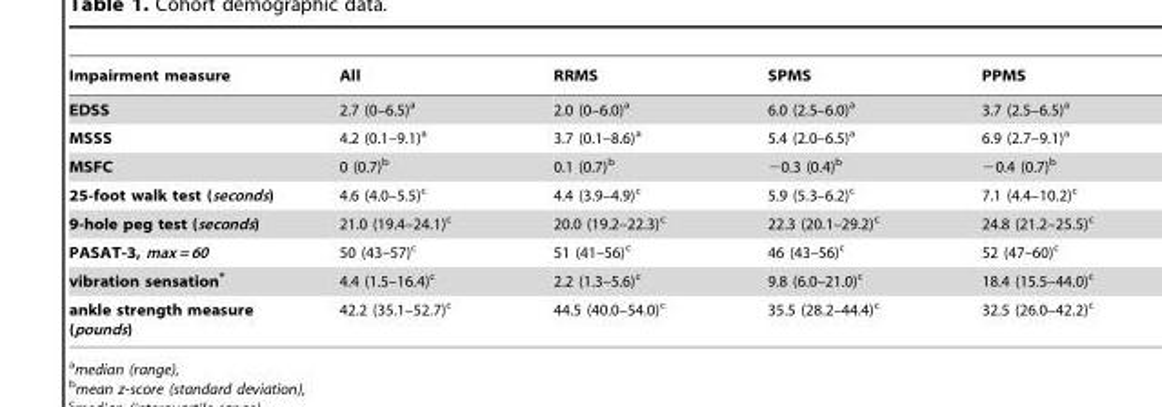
<table><thead><tr><td>Impairment measure</td><td>All</td><td>RRMS</td><td>SPMS</td><td>PPMS</td></tr></thead><tbody><tr><td>EDSS</td><td>2.7 (0–6.5)<sup>a</sup></td><td>2.0 (0–6.0)<sup>a</sup></td><td>6.0 (2.5–6.0)<sup>a</sup></td><td>3.7 (2.5–6.5)<sup>a</sup></td></tr><tr><td>MSSS</td><td>4.2 (0.1–9.1)<sup>a</sup></td><td>3.7 (0.1–8.6)<sup>a</sup></td><td>5.4 (2.0–6.5)<sup>a</sup></td><td>6.9 (2.7–9.1)<sup>a</sup></td></tr><tr><td>MSFC</td><td>0 (0.7)<sup>b</sup></td><td>0.1 (0.7)<sup>b</sup></td><td>−0.3 (0.4)<sup>b</sup></td><td>−0.4 (0.7)<sup>b</sup></td></tr><tr><td>25-foot walk test (seconds)</td><td>4.6 (4.0–5.5)<sup>c</sup></td><td>4.4 (3.9–4.9)<sup>c</sup></td><td>5.9 (5.3–6.2)<sup>c</sup></td><td>7.1 (4.4–10.2)<sup>c</sup></td></tr><tr><td>9-hole peg test (seconds)</td><td>21.0 (19.4–24.1)<sup>c</sup></td><td>20.0 (19.2–22.3)<sup>c</sup></td><td>22.3 (20.1–29.2)<sup>c</sup></td><td>24.8 (21.2–25.5)<sup>c</sup></td></tr><tr><td>PASAT-3, max = 60</td><td>50 (43–57)<sup>c</sup></td><td>51 (41–56)<sup>c</sup></td><td>46 (43–56)<sup>c</sup></td><td>52 (47–60)<sup>c</sup></td></tr><tr><td>vibration sensation*</td><td>4.4 (1.5–16.4)<sup>c</sup></td><td>2.2 (1.3–5.6)<sup>c</sup></td><td>9.8 (6.0–21.0)<sup>c</sup></td><td>18.4 (15.5–44.0)<sup>c</sup></td></tr><tr><td>ankle strength measure (pounds)</td><td>42.2 (35.1–52.7)<sup>c</sup></td><td>44.5 (40.0–54.0)<sup>c</sup></td><td>35.5 (28.2–44.4)<sup>c</sup></td><td>32.5 (26.0–42.2)<sup>c</sup></td></tr></tbody></table>